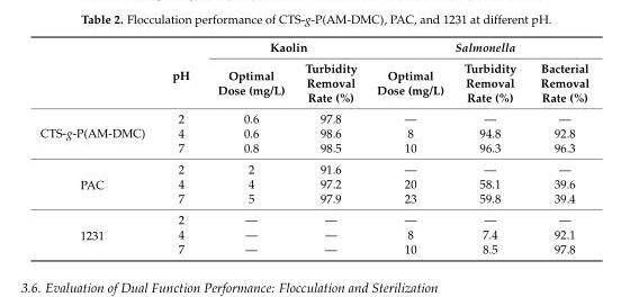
<table><thead><tr><td rowspan="2"></td><td rowspan="2">pH</td><td colspan="2">Kaolin</td><td colspan="3">Salmonella</td></tr><tr><td>Optimal Dose (mg/L)</td><td>Turbidity Removal Rate (%)</td><td>Optimal Dose (mg/L)</td><td>Turbidity Removal Rate (%)</td><td>Bacterial Removal Rate (%)</td></tr></thead><tbody><tr><td rowspan="3">CTS-g-P(AM-DMC)</td><td>2</td><td>0.6</td><td>97.8</td><td>—</td><td>—</td><td>—</td></tr><tr><td>4</td><td>0.6</td><td>98.6</td><td>8</td><td>94.8</td><td>92.8</td></tr><tr><td>7</td><td>0.8</td><td>98.5</td><td>10</td><td>96.3</td><td>96.3</td></tr><tr><td rowspan="3">PAC</td><td>2</td><td>2</td><td>91.6</td><td>—</td><td>—</td><td>—</td></tr><tr><td>4</td><td>4</td><td>97.2</td><td>20</td><td>58.1</td><td>39.6</td></tr><tr><td>7</td><td>5</td><td>97.9</td><td>23</td><td>59.8</td><td>39.4</td></tr><tr><td rowspan="3">1231</td><td>2</td><td>—</td><td>—</td><td>—</td><td>—</td><td>—</td></tr><tr><td>4</td><td>—</td><td>—</td><td>8</td><td>7.4</td><td>92.1</td></tr><tr><td>7</td><td>—</td><td>—</td><td>10</td><td>8.5</td><td>97.8</td></tr></tbody></table>